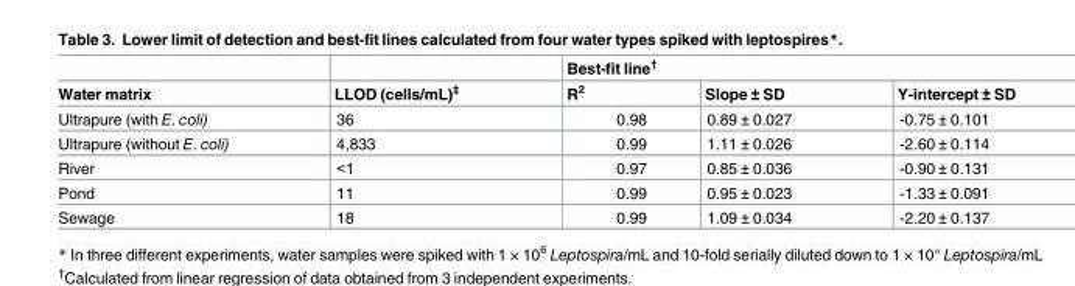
<table><thead><tr><td rowspan="2">Water matrix</td><td rowspan="2">LLOD (cells/mL)<sup>‡</sup></td><td colspan="3">Best-fit line<sup>†</sup></td></tr><tr><td>R<sup>2</sup></td><td>Slope ± SD</td><td>Y-intercept ± SD</td></tr></thead><tbody><tr><td>Ultrapure (with E. coli)</td><td>36</td><td>0.98</td><td>0.89 ± 0.027</td><td>-0.75 ± 0.101</td></tr><tr><td>Ultrapure (without E. coli)</td><td>4,833</td><td>0.99</td><td>1.11 ± 0.026</td><td>-2.60 ± 0.114</td></tr><tr><td>River</td><td>&lt;1</td><td>0.97</td><td>0.85 ± 0.036</td><td>-0.90 ± 0.131</td></tr><tr><td>Pond</td><td>11</td><td>0.99</td><td>0.95 ± 0.023</td><td>-1.33 ± 0.091</td></tr><tr><td>Sewage</td><td>18</td><td>0.99</td><td>1.09 ± 0.034</td><td>-2.20 ± 0.137</td></tr></tbody></table>